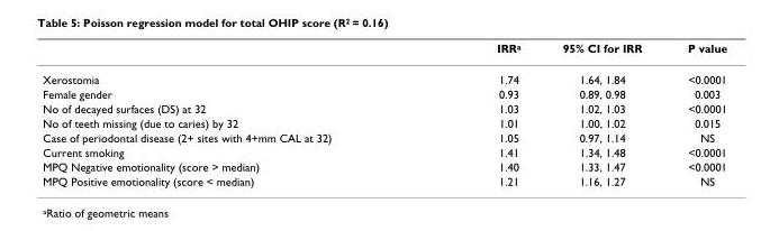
<table><thead><tr><td></td><td>IRR<sup>a</sup></td><td>95% CI for IRR</td><td>P value</td></tr></thead><tbody><tr><td>Xerostomia</td><td>1.74</td><td>1.64, 1.84</td><td>&lt;0.0001</td></tr><tr><td>Female gender</td><td>0.93</td><td>0.89, 0.98</td><td>0.003</td></tr><tr><td>No of decayed surfaces (DS) at 32</td><td>1.03</td><td>1.02, 1.03</td><td>&lt;0.0001</td></tr><tr><td>No of teeth missing (due to caries) by 32</td><td>1.01</td><td>1.00, 1.02</td><td>0.015</td></tr><tr><td>Case of periodontal disease (2+ sites with 4+mm CAL at 32)</td><td>1.05</td><td>0.97, 1.14</td><td>NS</td></tr><tr><td>Current smoking</td><td>1.41</td><td>1.34, 1.48</td><td>&lt;0.0001</td></tr><tr><td>MPQ Negative emotionality (score &gt; median)</td><td>1.40</td><td>1.33, 1.47</td><td>&lt;0.0001</td></tr><tr><td>MPQ Positive emotionality (score &lt; median)</td><td>1.21</td><td>1.16, 1.27</td><td>NS</td></tr></tbody></table>